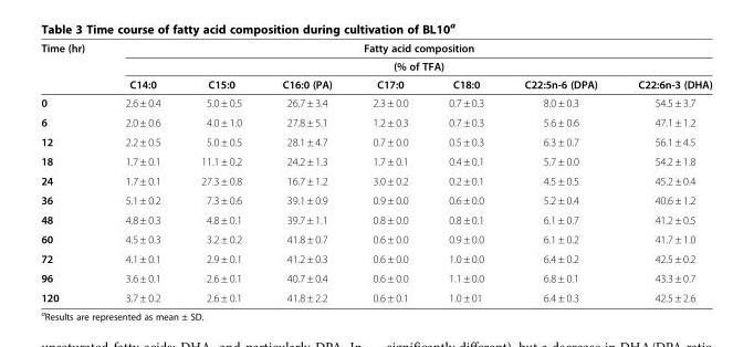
<table><thead><tr><td rowspan="3">Time (hr)</td><td rowspan="2" colspan="7">Fatty acid composition (% of TFA)</td></tr><tr></tr><tr><td>C14:0</td><td>C15:0</td><td>C16:0 (PA)</td><td>C17:0</td><td>C18:0</td><td>C22:5n-6 (DPA)</td><td>C22:6n-3 (DHA)</td></tr></thead><tbody><tr><td>0</td><td>2.6 ± 0.4</td><td>5.0 ± 0.5</td><td>26.7 ± 3.4</td><td>2.3 ± 0.0</td><td>0.7 ± 0.3</td><td>8.0 ± 0.3</td><td>54.5 ± 3.7</td></tr><tr><td>6</td><td>2.0 ± 0.6</td><td>4.0 ± 1.0</td><td>27.8 ± 5.1</td><td>1.2 ± 0.3</td><td>0.7 ± 0.3</td><td>5.6 ± 0.6</td><td>47.1 ± 1.2</td></tr><tr><td>12</td><td>2.2 ± 0.5</td><td>5.0 ± 0.5</td><td>28.1 ± 4.7</td><td>0.7 ± 0.0</td><td>0.5 ± 0.3</td><td>6.3 ± 0.7</td><td>56.1 ± 4.5</td></tr><tr><td>18</td><td>1.7 ± 0.1</td><td>11.1 ± 0.2</td><td>24.2 ± 1.3</td><td>1.7 ± 0.1</td><td>0.4 ± 0.1</td><td>5.7 ± 0.0</td><td>54.2 ± 1.8</td></tr><tr><td>24</td><td>1.7 ± 0.1</td><td>27.3 ± 0.8</td><td>16.7 ± 1.2</td><td>3.0 ± 0.2</td><td>0.2 ± 0.1</td><td>4.5 ± 0.5</td><td>45.2 ± 0.4</td></tr><tr><td>36</td><td>5.1 ± 0.2</td><td>7.3 ± 0.6</td><td>39.1 ± 0.9</td><td>0.9 ± 0.0</td><td>0.6 ± 0.0</td><td>5.2 ± 0.4</td><td>40.6 ± 1.2</td></tr><tr><td>48</td><td>4.8 ± 0.3</td><td>4.8 ± 0.1</td><td>39.7 ± 1.1</td><td>0.8 ± 0.0</td><td>0.8 ± 0.1</td><td>6.1 ± 0.7</td><td>41.2 ± 0.5</td></tr><tr><td>60</td><td>4.5 ± 0.3</td><td>3.2 ± 0.2</td><td>41.8 ± 0.7</td><td>0.6 ± 0.0</td><td>0.9 ± 0.0</td><td>6.1 ± 0.2</td><td>41.7 ± 1.0</td></tr><tr><td>72</td><td>4.1 ± 0.1</td><td>2.9 ± 0.1</td><td>41.2 ± 0.3</td><td>0.6 ± 0.0</td><td>1.0 ± 0.0</td><td>6.4 ± 0.2</td><td>42.5 ± 0.2</td></tr><tr><td>96</td><td>3.6 ± 0.1</td><td>2.6 ± 0.1</td><td>40.7 ± 0.4</td><td>0.6 ± 0.0</td><td>1.1 ± 0.0</td><td>6.8 ± 0.1</td><td>43.3 ± 0.7</td></tr><tr><td>120</td><td>3.7 ± 0.2</td><td>2.6 ± 0.1</td><td>41.8 ± 2.2</td><td>0.6 ± 0.1</td><td>1.0 ± 01</td><td>6.4 ± 0.3</td><td>42.5 ± 2.6</td></tr></tbody></table>